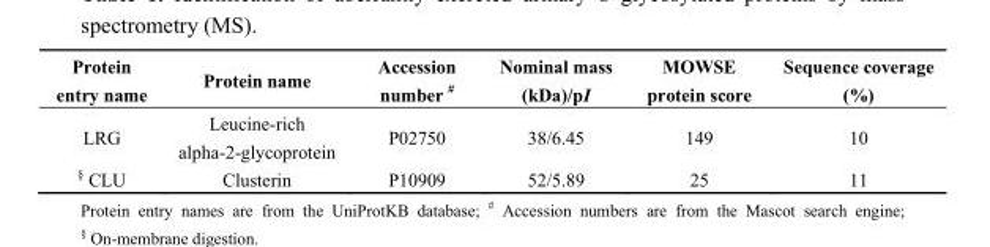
<table><thead><tr><td>Protein entry name</td><td>Protein name</td><td>Accession number #</td><td>Nominal mass (kDa)/pI</td><td>MOWSE protein score</td><td>Sequence coverage (%)</td></tr></thead><tbody><tr><td>LRG</td><td>Leucine-rich alpha-2-glycoprotein</td><td>P02750</td><td>38/6.45</td><td>149</td><td>10</td></tr><tr><td>§ CLU</td><td>Clusterin</td><td>P10909</td><td>52/5.89</td><td>25</td><td>11</td></tr></tbody></table>